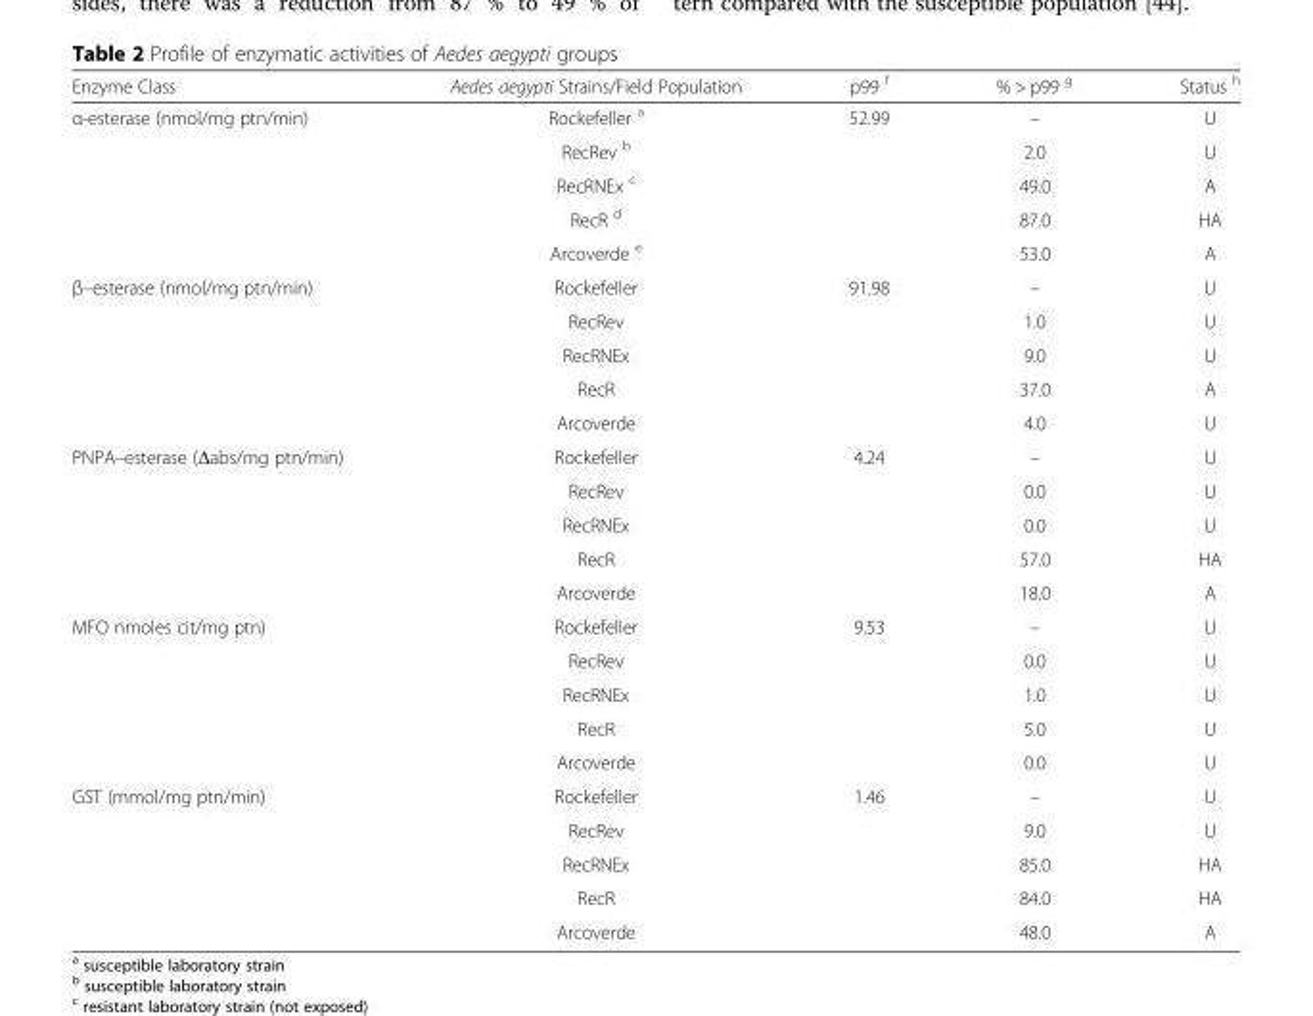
<table><thead><tr><td>Enzyme Class</td><td>Aedes aegypti Strains/Field Population</td><td>p99 <sup>f</sup></td><td>% &gt; p99 <sup>g</sup></td><td>Status <sup>h</sup></td></tr></thead><tbody><tr><td rowspan="5">α-esterase (nmol/mg ptn/min)</td><td>Rockefeller <sup>a</sup></td><td>52.99</td><td>–</td><td>U</td></tr><tr><td>RecRev <sup>b</sup></td><td></td><td>2.0</td><td>U</td></tr><tr><td>RecRNEx <sup>c</sup></td><td></td><td>49.0</td><td>A</td></tr><tr><td>RecR <sup>d</sup></td><td></td><td>87.0</td><td>HA</td></tr><tr><td>Arcoverde <sup>e</sup></td><td></td><td>53.0</td><td>A</td></tr><tr><td rowspan="5">β–esterase (nmol/mg ptn/min)</td><td>Rockefeller</td><td>91.98</td><td>–</td><td>U</td></tr><tr><td>RecRev</td><td></td><td>1.0</td><td>U</td></tr><tr><td>RecRNEx</td><td></td><td>9.0</td><td>U</td></tr><tr><td>RecR</td><td></td><td>37.0</td><td>A</td></tr><tr><td>Arcoverde</td><td></td><td>4.0</td><td>U</td></tr><tr><td rowspan="5">PNPA–esterase (Δabs/mg ptn/min)</td><td>Rockefeller</td><td>4.24</td><td>–</td><td>U</td></tr><tr><td>RecRev</td><td></td><td>0.0</td><td>U</td></tr><tr><td>RecRNEx</td><td></td><td>0.0</td><td>U</td></tr><tr><td>RecR</td><td></td><td>57.0</td><td>HA</td></tr><tr><td>Arcoverde</td><td></td><td>18.0</td><td>A</td></tr><tr><td rowspan="5">MFO nmoles cit/mg ptn)</td><td>Rockefeller</td><td>9.53</td><td>–</td><td>U</td></tr><tr><td>RecRev</td><td></td><td>0.0</td><td>U</td></tr><tr><td>RecRNEx</td><td></td><td>1.0</td><td>U</td></tr><tr><td>RecR</td><td></td><td>5.0</td><td>U</td></tr><tr><td>Arcoverde</td><td></td><td>0.0</td><td>U</td></tr><tr><td rowspan="5">GST (mmol/mg ptn/min)</td><td>Rockefeller</td><td>1.46</td><td>–</td><td>U</td></tr><tr><td>RecRev</td><td></td><td>9.0</td><td>U</td></tr><tr><td>RecRNEx</td><td></td><td>85.0</td><td>HA</td></tr><tr><td>RecR</td><td></td><td>84.0</td><td>HA</td></tr><tr><td>Arcoverde</td><td></td><td>48.0</td><td>A</td></tr></tbody></table>